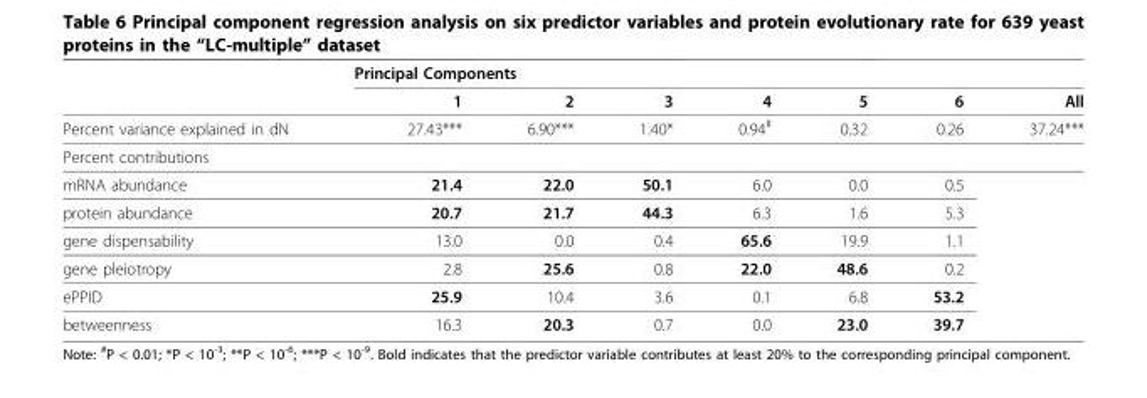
<table><thead><tr><td rowspan="2"></td><td colspan="7">Principal Components</td></tr><tr><td>1</td><td>2</td><td>3</td><td>4</td><td>5</td><td>6</td><td>All</td></tr></thead><tbody><tr><td>Percent variance explained in dN</td><td>27.43***</td><td>6.90***</td><td>1.40*</td><td>0.94<sup>#</sup></td><td>0.32</td><td>0.26</td><td>37.24***</td></tr><tr><td colspan="8">Percent contributions</td></tr><tr><td>mRNA abundance</td><td>21.4</td><td>22.0</td><td>50.1</td><td>6.0</td><td>0.0</td><td>0.5</td><td></td></tr><tr><td>protein abundance</td><td>20.7</td><td>21.7</td><td>44.3</td><td>6.3</td><td>1.6</td><td>5.3</td><td></td></tr><tr><td>gene dispensability</td><td>13.0</td><td>0.0</td><td>0.4</td><td>65.6</td><td>19.9</td><td>1.1</td><td></td></tr><tr><td>gene pleiotropy</td><td>2.8</td><td>25.6</td><td>0.8</td><td>22.0</td><td>48.6</td><td>0.2</td><td></td></tr><tr><td>ePPID</td><td>25.9</td><td>10.4</td><td>3.6</td><td>0.1</td><td>6.8</td><td>53.2</td><td></td></tr><tr><td>betweenness</td><td>16.3</td><td>20.3</td><td>0.7</td><td>0.0</td><td>23.0</td><td>39.7</td><td></td></tr></tbody></table>